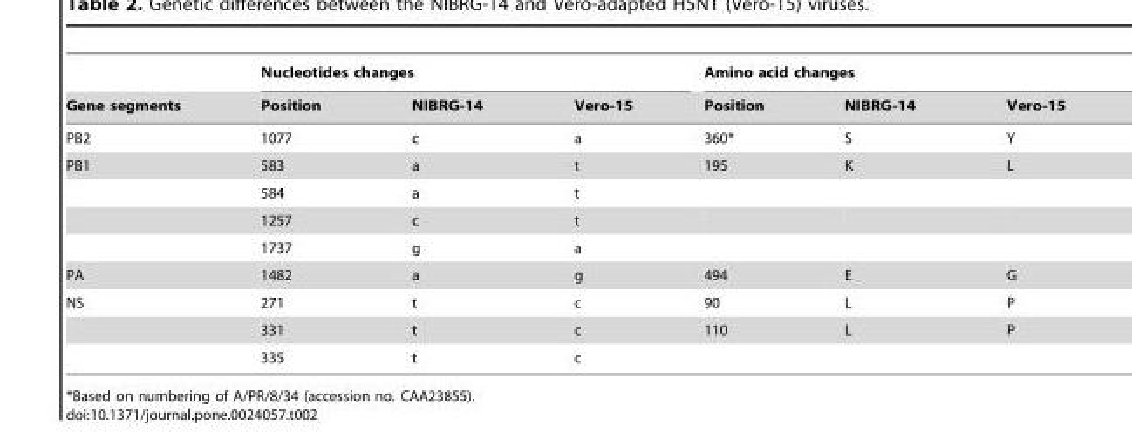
<table><thead><tr><td rowspan="2">Gene segments</td><td colspan="3">Nucleotides changes</td><td colspan="3">Amino acid changes</td></tr><tr><td>Position</td><td>NIBRG-14</td><td>Vero-15</td><td>Position</td><td>NIBRG-14</td><td>Vero-15</td></tr></thead><tbody><tr><td>PB2</td><td>1077</td><td>c</td><td>a</td><td>360*</td><td>S</td><td>Y</td></tr><tr><td rowspan="4">PB1</td><td>583</td><td>a</td><td>t</td><td>195</td><td>K</td><td>L</td></tr><tr><td>584</td><td>a</td><td>t</td><td></td><td></td><td></td></tr><tr><td>1257</td><td>c</td><td>t</td><td></td><td></td><td></td></tr><tr><td>1737</td><td>g</td><td>a</td><td></td><td></td><td></td></tr><tr><td>PA</td><td>1482</td><td>a</td><td>g</td><td>494</td><td>E</td><td>G</td></tr><tr><td rowspan="3">NS</td><td>271</td><td>t</td><td>c</td><td>90</td><td>L</td><td>P</td></tr><tr><td>331</td><td>t</td><td>c</td><td>110</td><td>L</td><td>P</td></tr><tr><td>335</td><td>t</td><td>c</td><td></td><td></td><td></td></tr></tbody></table>